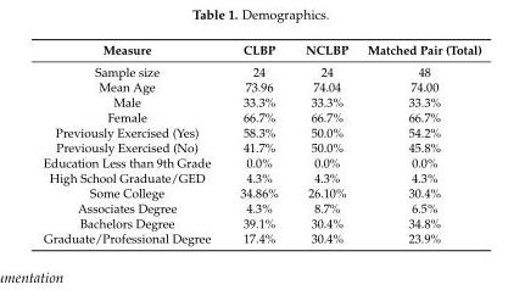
<table><thead><tr><td>Measure</td><td>CLBP</td><td>NCLBP</td><td>Matched Pair (Total)</td></tr></thead><tbody><tr><td>Sample size</td><td>24</td><td>24</td><td>48</td></tr><tr><td>Mean Age</td><td>73.96</td><td>74.04</td><td>74.00</td></tr><tr><td>Male</td><td>33.3%</td><td>33.3%</td><td>33.3%</td></tr><tr><td>Female</td><td>66.7%</td><td>66.7%</td><td>66.7%</td></tr><tr><td>Previously Exercised (Yes)</td><td>58.3%</td><td>50.0%</td><td>54.2%</td></tr><tr><td>Previously Exercised (No)</td><td>41.7%</td><td>50.0%</td><td>45.8%</td></tr><tr><td>Education Less than 9th Grade</td><td>0.0%</td><td>0.0%</td><td>0.0%</td></tr><tr><td>High School Graduate/GED</td><td>4.3%</td><td>4.3%</td><td>4.3%</td></tr><tr><td>Some College</td><td>34.86%</td><td>26.10%</td><td>30.4%</td></tr><tr><td>Associates Degree</td><td>4.3%</td><td>8.7%</td><td>6.5%</td></tr><tr><td>Bachelors Degree</td><td>39.1%</td><td>30.4%</td><td>34.8%</td></tr><tr><td>Graduate/Professional Degree</td><td>17.4%</td><td>30.4%</td><td>23.9%</td></tr></tbody></table>